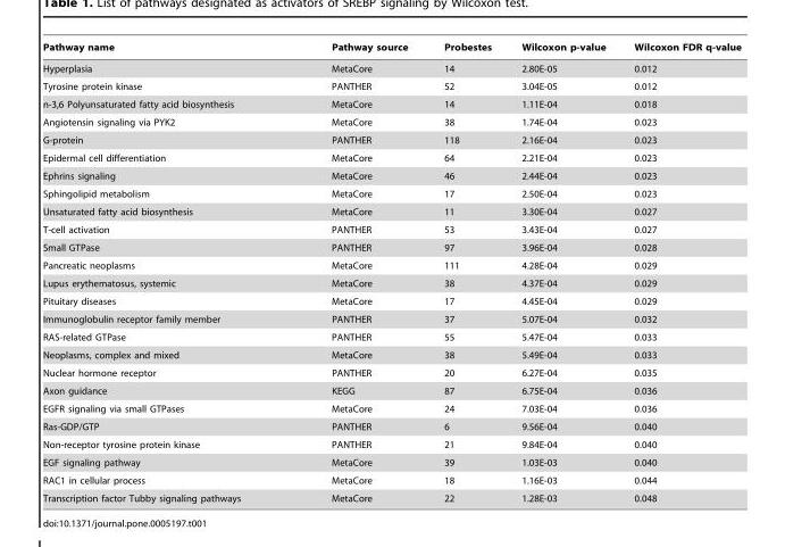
<table><thead><tr><td>Pathway name</td><td>Pathway source</td><td>Probestes</td><td>Wilcoxon p-value</td><td>Wilcoxon FDR q-value</td></tr></thead><tbody><tr><td>Hyperplasia</td><td>MetaCore</td><td>14</td><td>2.80E-05</td><td>0.012</td></tr><tr><td>Tyrosine protein kinase</td><td>PANTHER</td><td>52</td><td>3.04E-05</td><td>0.012</td></tr><tr><td>n-3,6 Polyunsaturated fatty acid biosynthesis</td><td>MetaCore</td><td>14</td><td>1.11E-04</td><td>0.018</td></tr><tr><td>Angiotensin signaling via PYK2</td><td>MetaCore</td><td>38</td><td>1.74E-04</td><td>0.023</td></tr><tr><td>G-protein</td><td>PANTHER</td><td>118</td><td>2.16E-04</td><td>0.023</td></tr><tr><td>Epidermal cell differentiation</td><td>MetaCore</td><td>64</td><td>2.21E-04</td><td>0.023</td></tr><tr><td>Ephrins signaling</td><td>MetaCore</td><td>46</td><td>2.44E-04</td><td>0.023</td></tr><tr><td>Sphingolipid metabolism</td><td>MetaCore</td><td>17</td><td>2.50E-04</td><td>0.023</td></tr><tr><td>Unsaturated fatty acid biosynthesis</td><td>MetaCore</td><td>11</td><td>3.30E-04</td><td>0.027</td></tr><tr><td>T-cell activation</td><td>PANTHER</td><td>53</td><td>3.43E-04</td><td>0.027</td></tr><tr><td>Small GTPase</td><td>PANTHER</td><td>97</td><td>3.96E-04</td><td>0.028</td></tr><tr><td>Pancreatic neoplasms</td><td>MetaCore</td><td>111</td><td>4.28E-04</td><td>0.029</td></tr><tr><td>Lupus erythematosus, systemic</td><td>MetaCore</td><td>38</td><td>4.37E-04</td><td>0.029</td></tr><tr><td>Pituitary diseases</td><td>MetaCore</td><td>17</td><td>4.45E-04</td><td>0.029</td></tr><tr><td>Immunoglobulin receptor family member</td><td>PANTHER</td><td>37</td><td>5.07E-04</td><td>0.032</td></tr><tr><td>RAS-related GTPase</td><td>PANTHER</td><td>55</td><td>5.47E-04</td><td>0.033</td></tr><tr><td>Neoplasms, complex and mixed</td><td>MetaCore</td><td>38</td><td>5.49E-04</td><td>0.033</td></tr><tr><td>Nuclear hormone receptor</td><td>PANTHER</td><td>20</td><td>6.27E-04</td><td>0.035</td></tr><tr><td>Axon guidance</td><td>KEGG</td><td>87</td><td>6.75E-04</td><td>0.036</td></tr><tr><td>EGFR signaling via small GTPases</td><td>MetaCore</td><td>24</td><td>7.03E-04</td><td>0.036</td></tr><tr><td>Ras-GDP/GTP</td><td>PANTHER</td><td>6</td><td>9.56E-04</td><td>0.040</td></tr><tr><td>Non-receptor tyrosine protein kinase</td><td>PANTHER</td><td>21</td><td>9.84E-04</td><td>0.040</td></tr><tr><td>EGF signaling pathway</td><td>MetaCore</td><td>39</td><td>1.03E-03</td><td>0.040</td></tr><tr><td>RAC1 in cellular process</td><td>MetaCore</td><td>18</td><td>1.16E-03</td><td>0.044</td></tr><tr><td>Transcription factor Tubby signaling pathways</td><td>MetaCore</td><td>22</td><td>1.28E-03</td><td>0.048</td></tr></tbody></table>